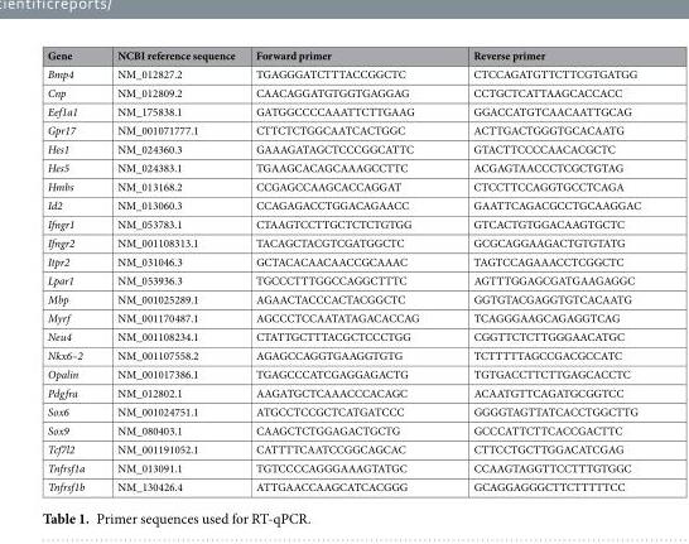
<table><thead><tr><td>Gene</td><td>NCBI reference sequence</td><td>Forward primer</td><td>Reverse primer</td></tr></thead><tbody><tr><td>Bmp4</td><td>NM_012827.2</td><td>TGAGGGATCTTTACCGGCTC</td><td>CTCCAGATGTTCTTCGTGATGG</td></tr><tr><td>Cnp</td><td>NM_012809.2</td><td>CAACAGGATGTGGTGAGGAG</td><td>CCTGCTCATTAAGCACCACC</td></tr><tr><td>Eef1a1</td><td>NM_175838.1</td><td>GATGGCCCCAAATTCTTGAAG</td><td>GGACCATGTCAACAATTGCAG</td></tr><tr><td>Gpr17</td><td>NM_001071777.1</td><td>CTTCTCTGGCAATCACTGGC</td><td>ACTTGACTGGGTGCACAATG</td></tr><tr><td>Hes1</td><td>NM_024360.3</td><td>GAAAGATAGCTCCCGGCATTC</td><td>GTACTTCCCCAACACGCTC</td></tr><tr><td>Hes5</td><td>NM_024383.1</td><td>TGAAGCACAGCAAAGCCTTC</td><td>ACGAGTAACCCTCGCTGTAG</td></tr><tr><td>Hmbs</td><td>NM_013168.2</td><td>CCGAGCCAAGCACCAGGAT</td><td>CTCCTTCCAGGTGCCTCAGA</td></tr><tr><td>Id2</td><td>NM_013060.3</td><td>CCAGAGACCTGGACAGAACC</td><td>GAATTCAGACGCCTGCAAGGAC</td></tr><tr><td>Ifngr1</td><td>NM_053783.1</td><td>CTAAGTCCTTGCTCTCTGTGG</td><td>GTCACTGTGGACAAGTGCTC</td></tr><tr><td>Ifngr2</td><td>NM_001108313.1</td><td>TACAGCTACGTCGATGGCTC</td><td>GCGCAGGAAGACTGTGTATG</td></tr><tr><td>Itpr2</td><td>NM_031046.3</td><td>GCTACACAACAACCGCAAAC</td><td>TAGTCCAGAAACCTCGGCTC</td></tr><tr><td>Lpar1</td><td>NM_053936.3</td><td>TGCCCTTTGGCCAGGCTTTC</td><td>AGTTTGGAGCGATGAAGAGGC</td></tr><tr><td>Mbp</td><td>NM_001025289.1</td><td>AGAACTACCCACTACGGCTC</td><td>GGTGTACGAGGTGTCACAATG</td></tr><tr><td>Myrf</td><td>NM_001170487.1</td><td>AGCCCTCCAATATAGACACCAG</td><td>TCAGGGAAGCAGAGGTCAG</td></tr><tr><td>Neu4</td><td>NM_001108234.1</td><td>CTATTGCTTTACGCTCCCTGG</td><td>CGGTTCTCTTGGGAACATGC</td></tr><tr><td>Nkx6–2</td><td>NM_001107558.2</td><td>AGAGCCAGGTGAAGGTGTG</td><td>TCTTTTTAGCCGACGCCATC</td></tr><tr><td>Opalin</td><td>NM_001017386.1</td><td>TGAGCCCATCGAGGAGACTG</td><td>TGTGACCTTCTTGAGCACCTC</td></tr><tr><td>Pdgfra</td><td>NM_012802.1</td><td>AAGATGCTCAAACCCACAGC</td><td>ACAATGTTCAGATGCGGTCC</td></tr><tr><td>Sox6</td><td>NM_001024751.1</td><td>ATGCCTCCGCTCATGATCCC</td><td>GGGGTAGTTATCACCTGGCTTG</td></tr><tr><td>Sox9</td><td>NM_080403.1</td><td>CAAGCTCTGGAGACTGCTG</td><td>GCCCATTCTTCACCGACTTC</td></tr><tr><td>Tcf7l2</td><td>NM_001191052.1</td><td>CATTTTCAATCCGGCAGCAC</td><td>CTTCCTGCTTGGACATCGAG</td></tr><tr><td>Tnfrsf1a</td><td>NM_013091.1</td><td>TGTCCCCAGGGAAAGTATGC</td><td>CCAAGTAGGTTCCTTTGTGGC</td></tr><tr><td>Tnfrsf1b</td><td>NM_130426.4</td><td>ATTGAACCAAGCATCACGGG</td><td>GCAGGAGGGCTTCTTTTTCC</td></tr></tbody></table>